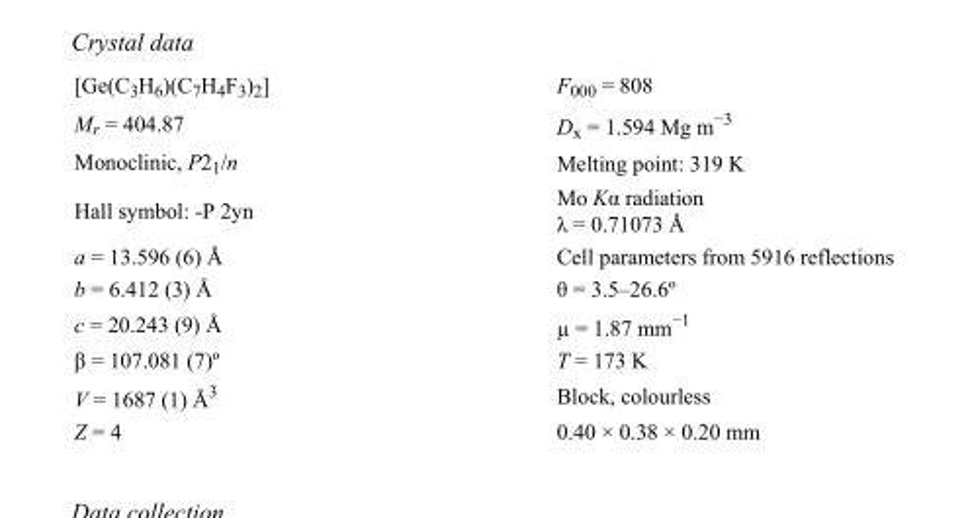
<table><tbody><tr><td>[Ge(C<sub>3</sub>H<sub>6</sub>)(C<sub>7</sub>H<sub>4</sub>F<sub>3</sub>)<sub>2</sub>]</td><td>F000 = 808</td></tr><tr><td>M<sub>r</sub> = 404.87</td><td>D<sub>x</sub> = 1.594 Mg m<sup>−3</sup></td></tr><tr><td>Monoclinic, P2<sub>1</sub>/n</td><td>Melting point: 319 K</td></tr><tr><td>Hall symbol: -P 2yn</td><td>Mo Kα radiation λ = 0.71073 Å</td></tr><tr><td>a = 13.596 (6) Å</td><td>Cell parameters from 5916 reflections</td></tr><tr><td>b = 6.412 (3) Å</td><td>θ = 3.5–26.6º</td></tr><tr><td>c = 20.243 (9) Å</td><td>µ = 1.87 mm<sup>−1</sup></td></tr><tr><td>β = 107.081 (7)º</td><td>T = 173 K</td></tr><tr><td>V = 1687 (1) Å<sup>3</sup></td><td>Block, colourless</td></tr><tr><td>Z = 4</td><td>0.40 × 0.38 × 0.20 mm</td></tr></tbody></table>